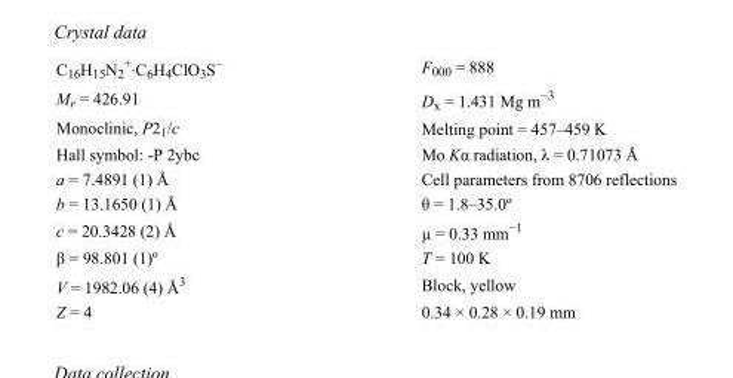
<table><tbody><tr><td>C<sub>16</sub>H<sub>15</sub>N<sub>2</sub> <sup>+</sup>·C<sub>6</sub>H<sub>4</sub>ClO<sub>3</sub>S<sup>–</sup></td><td>F000 = 888</td></tr><tr><td>M<sub>r</sub> = 426.91</td><td>D<sub>x</sub> = 1.431 Mg m<sup>−3</sup></td></tr><tr><td>Monoclinic, P2<sub>1</sub>/c</td><td>Melting point = 457–459 K</td></tr><tr><td>Hall symbol: -P 2ybc</td><td>Mo Kα radiation, λ = 0.71073 Å</td></tr><tr><td>a = 7.4891 (1) Å</td><td>Cell parameters from 8706 reflections</td></tr><tr><td>b = 13.1650 (1) Å</td><td>θ = 1.8–35.0º</td></tr><tr><td>c = 20.3428 (2) Å</td><td>µ = 0.33 mm<sup>−1</sup></td></tr><tr><td>β = 98.801 (1)º</td><td>T = 100 K</td></tr><tr><td>V = 1982.06 (4) Å<sup>3</sup></td><td>Block, yellow</td></tr><tr><td>Z = 4</td><td>0.34 × 0.28 × 0.19 mm</td></tr></tbody></table>